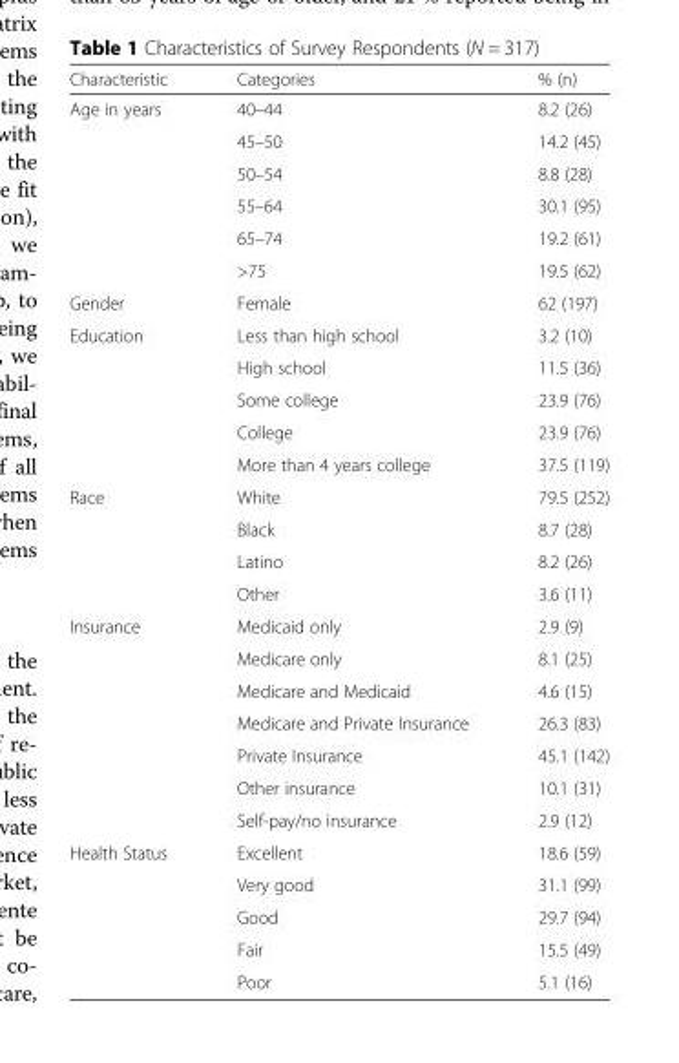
<table><thead><tr><td>Characteristic</td><td>Categories</td><td>% (n)</td></tr></thead><tbody><tr><td rowspan="6">Age in years</td><td>40–44</td><td>8.2 (26)</td></tr><tr><td>45–50</td><td>14.2 (45)</td></tr><tr><td>50–54</td><td>8.8 (28)</td></tr><tr><td>55–64</td><td>30.1 (95)</td></tr><tr><td>65–74</td><td>19.2 (61)</td></tr><tr><td>&gt;75</td><td>19.5 (62)</td></tr><tr><td>Gender</td><td>Female</td><td>62 (197)</td></tr><tr><td rowspan="5">Education</td><td>Less than high school</td><td>3.2 (10)</td></tr><tr><td>High school</td><td>11.5 (36)</td></tr><tr><td>Some college</td><td>23.9 (76)</td></tr><tr><td>College</td><td>23.9 (76)</td></tr><tr><td>More than 4 years college</td><td>37.5 (119)</td></tr><tr><td rowspan="4">Race</td><td>White</td><td>79.5 (252)</td></tr><tr><td>Black</td><td>8.7 (28)</td></tr><tr><td>Latino</td><td>8.2 (26)</td></tr><tr><td>Other</td><td>3.6 (11)</td></tr><tr><td rowspan="7">Insurance</td><td>Medicaid only</td><td>2.9 (9)</td></tr><tr><td>Medicare only</td><td>8.1 (25)</td></tr><tr><td>Medicare and Medicaid</td><td>4.6 (15)</td></tr><tr><td>Medicare and Private Insurance</td><td>26.3 (83)</td></tr><tr><td>Private Insurance</td><td>45.1 (142)</td></tr><tr><td>Other insurance</td><td>10.1 (31)</td></tr><tr><td>Self-pay/no insurance</td><td>2.9 (12)</td></tr><tr><td rowspan="5">Health Status</td><td>Excellent</td><td>18.6 (59)</td></tr><tr><td>Very good</td><td>31.1 (99)</td></tr><tr><td>Good</td><td>29.7 (94)</td></tr><tr><td>Fair</td><td>15.5 (49)</td></tr><tr><td>Poor</td><td>5.1 (16)</td></tr></tbody></table>